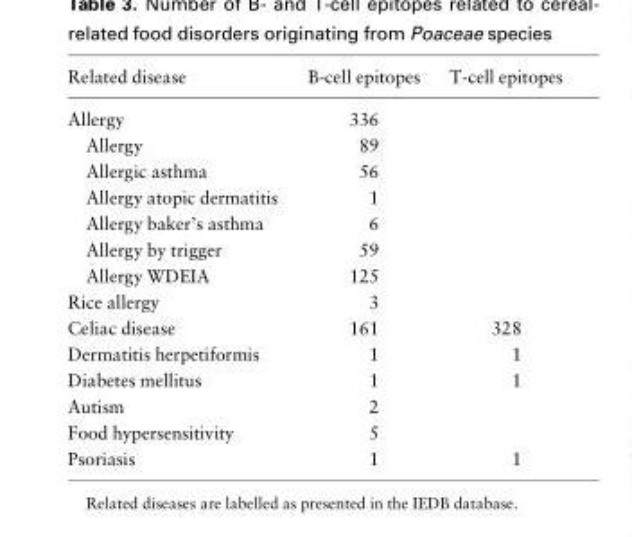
<table><thead><tr><td>Related disease</td><td>B-cell epitopes</td><td>T-cell epitopes</td></tr></thead><tbody><tr><td>Allergy</td><td>336</td><td></td></tr><tr><td>Allergy</td><td>89</td><td></td></tr><tr><td>Allergic asthma</td><td>56</td><td></td></tr><tr><td>Allergy atopic dermatitis</td><td>1</td><td></td></tr><tr><td>Allergy baker’s asthma</td><td>6</td><td></td></tr><tr><td>Allergy by trigger</td><td>59</td><td></td></tr><tr><td>Allergy WDEIA</td><td>125</td><td></td></tr><tr><td>Rice allergy</td><td>3</td><td></td></tr><tr><td>Celiac disease</td><td>161</td><td>328</td></tr><tr><td>Dermatitis herpetiformis</td><td>1</td><td>1</td></tr><tr><td>Diabetes mellitus</td><td>1</td><td>1</td></tr><tr><td>Autism</td><td>2</td><td></td></tr><tr><td>Food hypersensitivity</td><td>5</td><td></td></tr><tr><td>Psoriasis</td><td>1</td><td>1</td></tr></tbody></table>